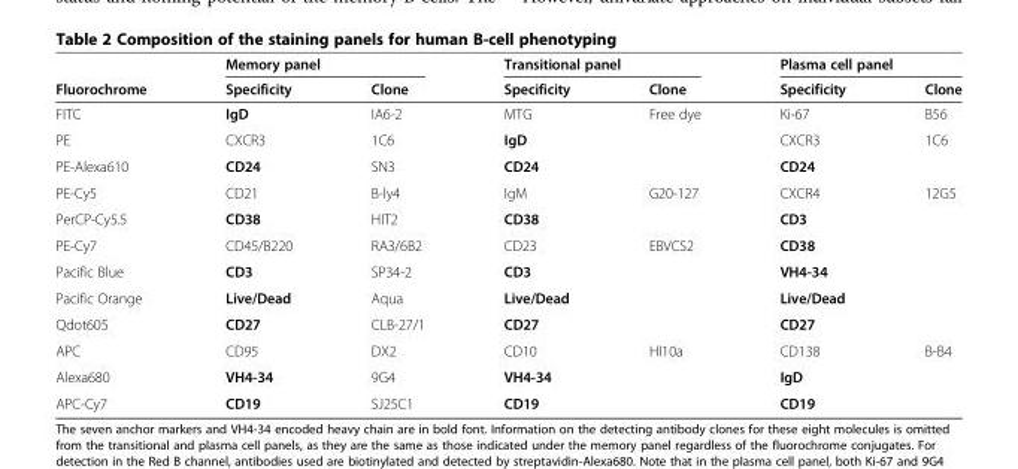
<table><thead><tr><td rowspan="2">Fluorochrome</td><td colspan="2">Memory panel</td><td colspan="2">Transitional panel</td><td colspan="2">Plasma cell panel</td></tr><tr><td>Specificity</td><td>Clone</td><td>Specificity</td><td>Clone</td><td>Specificity</td><td>Clone</td></tr></thead><tbody><tr><td>FITC</td><td>IgD</td><td>IA6-2</td><td>MTG</td><td>Free dye</td><td>Ki-67</td><td>B56</td></tr><tr><td>PE</td><td>CXCR3</td><td>1C6</td><td>IgD</td><td></td><td>CXCR3</td><td>1C6</td></tr><tr><td>PE-Alexa610</td><td>CD24</td><td>SN3</td><td>CD24</td><td></td><td>CD24</td><td></td></tr><tr><td>PE-Cy5</td><td>CD21</td><td>B-ly4</td><td>IgM</td><td>G20-127</td><td>CXCR4</td><td>12G5</td></tr><tr><td>PerCP-Cy5.5</td><td>CD38</td><td>HIT2</td><td>CD38</td><td></td><td>CD3</td><td></td></tr><tr><td>PE-Cy7</td><td>CD45/B220</td><td>RA3/6B2</td><td>CD23</td><td>EBVCS2</td><td>CD38</td><td></td></tr><tr><td>Pacific Blue</td><td>CD3</td><td>SP34-2</td><td>CD3</td><td></td><td>VH4-34</td><td></td></tr><tr><td>Pacific Orange</td><td>Live/Dead</td><td>Aqua</td><td>Live/Dead</td><td></td><td>Live/Dead</td><td></td></tr><tr><td>Qdot605</td><td>CD27</td><td>CLB-27/1</td><td>CD27</td><td></td><td>CD27</td><td></td></tr><tr><td>APC</td><td>CD95</td><td>DX2</td><td>CD10</td><td>HI10a</td><td>CD138</td><td>B-B4</td></tr><tr><td>Alexa680</td><td>VH4-34</td><td>9G4</td><td>VH4-34</td><td></td><td>IgD</td><td></td></tr><tr><td>APC-Cy7</td><td>CD19</td><td>SJ25C1</td><td>CD19</td><td></td><td>CD19</td><td></td></tr></tbody></table>